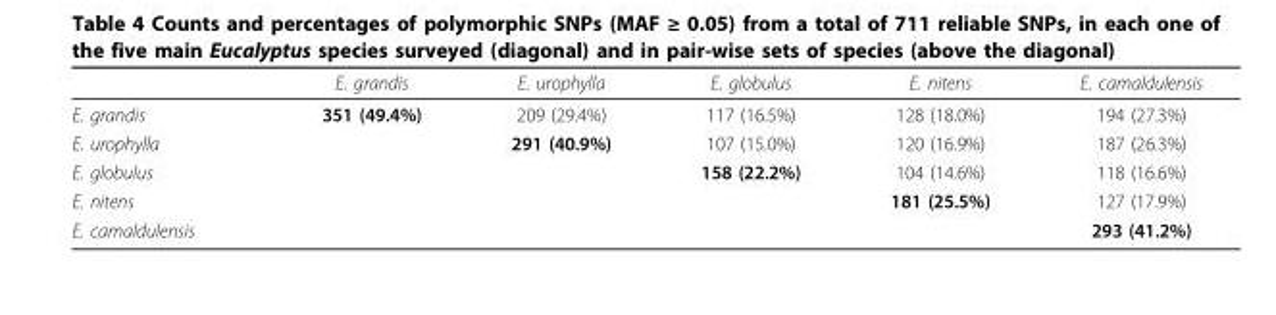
<table><thead><tr><td></td><td>E. grandis</td><td>E. urophylla</td><td>E. globulus</td><td>E. nitens</td><td>E. camaldulensis</td></tr></thead><tbody><tr><td>E. grandis</td><td>351 (49.4%)</td><td>209 (29.4%)</td><td>117 (16.5%)</td><td>128 (18.0%)</td><td>194 (27.3%)</td></tr><tr><td>E. urophylla</td><td></td><td>291 (40.9%)</td><td>107 (15.0%)</td><td>120 (16.9%)</td><td>187 (26.3%)</td></tr><tr><td>E. globulus</td><td></td><td></td><td>158 (22.2%)</td><td>104 (14.6%)</td><td>118 (16.6%)</td></tr><tr><td>E. nitens</td><td></td><td></td><td></td><td>181 (25.5%)</td><td>127 (17.9%)</td></tr><tr><td>E. camaldulensis</td><td></td><td></td><td></td><td></td><td>293 (41.2%)</td></tr></tbody></table>